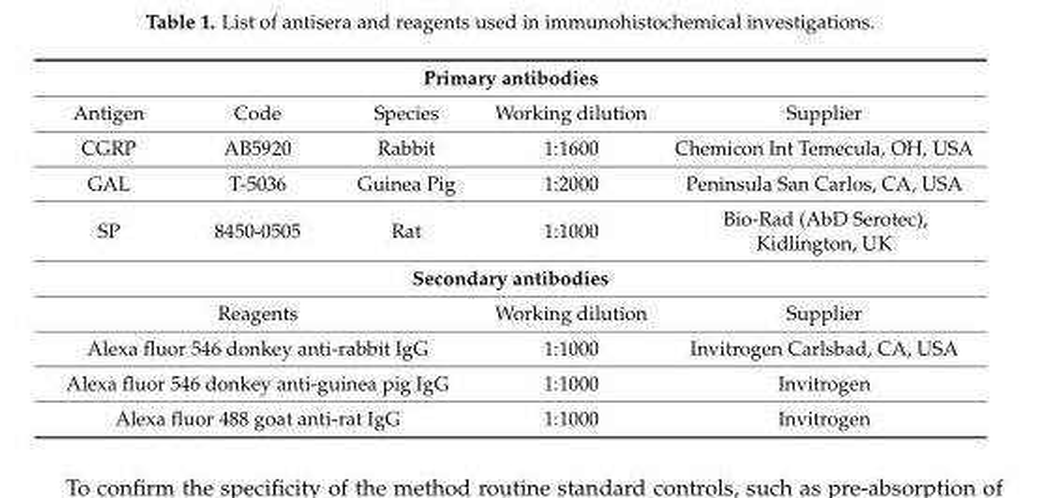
<table><tbody><tr><td colspan="5">Primary antibodies</td></tr><tr><td>Antigen</td><td>Code</td><td>Species</td><td>Working dilution</td><td>Supplier</td></tr><tr><td>CGRP</td><td>AB5920</td><td>Rabbit</td><td>1:1600</td><td>Chemicon Int Temecula, OH, USA</td></tr><tr><td>GAL</td><td>T-5036</td><td>Guinea Pig</td><td>1:2000</td><td>Peninsula San Carlos, CA, USA</td></tr><tr><td>SP</td><td>8450-0505</td><td>Rat</td><td>1:1000</td><td>Bio-Rad (AbD Serotec), Kidlington, UK</td></tr><tr><td colspan="5">Secondary antibodies</td></tr><tr><td colspan="3">Reagents</td><td>Working dilution</td><td>Supplier</td></tr><tr><td colspan="3">Alexa fluor 546 donkey anti-rabbit IgG</td><td>1:1000</td><td>Invitrogen Carlsbad, CA, USA</td></tr><tr><td colspan="3">Alexa fluor 546 donkey anti-guinea pig IgG</td><td>1:1000</td><td>Invitrogen</td></tr><tr><td colspan="3">Alexa fluor 488 goat anti-rat IgG</td><td>1:1000</td><td>Invitrogen</td></tr></tbody></table>